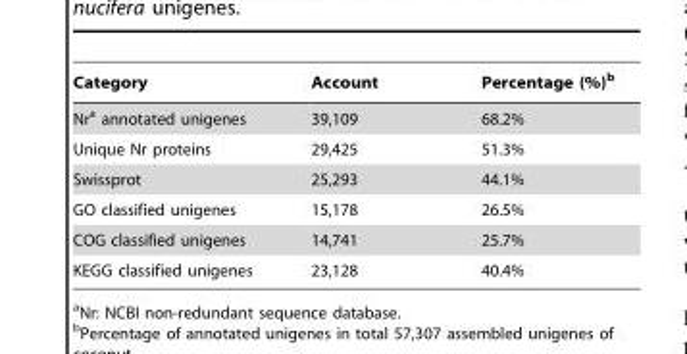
<table><thead><tr><td>Category</td><td>Account</td><td>Percentage (%)<sup>b</sup></td></tr></thead><tbody><tr><td>Nr<sup>a</sup> annotated unigenes</td><td>39,109</td><td>68.2%</td></tr><tr><td>Unique Nr proteins</td><td>29,425</td><td>51.3%</td></tr><tr><td>Swissprot</td><td>25,293</td><td>44.1%</td></tr><tr><td>GO classified unigenes</td><td>15,178</td><td>26.5%</td></tr><tr><td>COG classified unigenes</td><td>14,741</td><td>25.7%</td></tr><tr><td>KEGG classified unigenes</td><td>23,128</td><td>40.4%</td></tr></tbody></table>